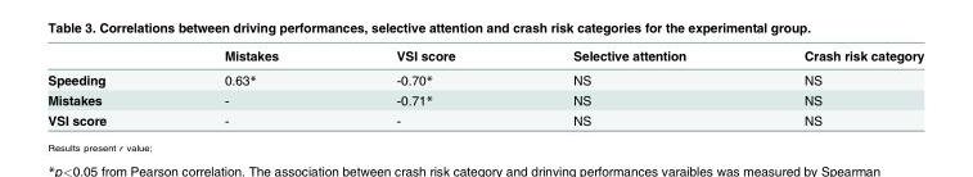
<table><thead><tr><td></td><td>Mistakes</td><td>VSI score</td><td>Selective attention</td><td>Crash risk category</td></tr></thead><tbody><tr><td>Speeding</td><td>0.63*</td><td>-0.70*</td><td>NS</td><td>NS</td></tr><tr><td>Mistakes</td><td>-</td><td>-0.71*</td><td>NS</td><td>NS</td></tr><tr><td>VSI score</td><td>-</td><td>-</td><td>NS</td><td>NS</td></tr></tbody></table>